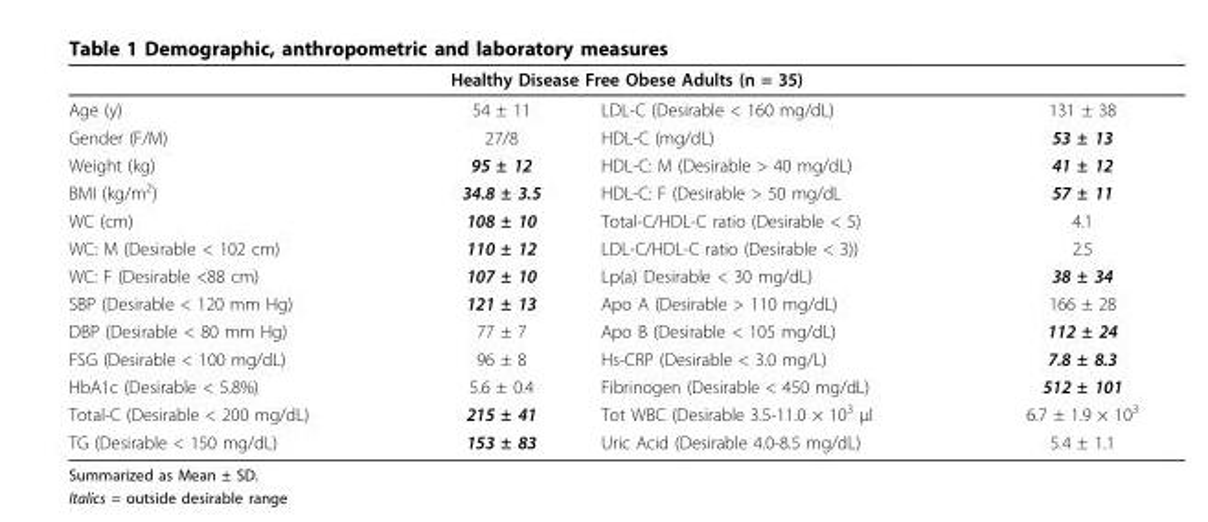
<table><thead><tr><td colspan="4">Healthy Disease Free Obese Adults (n = 35)</td></tr><tr><td>Age (y)</td><td>54 ± 11</td><td>LDL-C (Desirable &lt; 160 mg/dL)</td><td>131 ± 38</td></tr></thead><tbody><tr><td>Gender (F/M)</td><td>27/8</td><td>HDL-C (mg/dL)</td><td>53 ± 13</td></tr><tr><td>Weight (kg)</td><td>95 ± 12</td><td>HDL-C: M (Desirable &gt; 40 mg/dL)</td><td>41 ± 12</td></tr><tr><td>BMI (kg/m<sup>2</sup>)</td><td>34.8 ± 3.5</td><td>HDL-C: F (Desirable &gt; 50 mg/dL</td><td>57 ± 11</td></tr><tr><td>WC (cm)</td><td>108 ± 10</td><td>Total-C/HDL-C ratio (Desirable &lt; 5)</td><td>4.1</td></tr><tr><td>WC: M (Desirable &lt; 102 cm)</td><td>110 ± 12</td><td>LDL-C/HDL-C ratio (Desirable &lt; 3))</td><td>2.5</td></tr><tr><td>WC: F (Desirable &lt;88 cm)</td><td>107 ± 10</td><td>Lp(a) Desirable &lt; 30 mg/dL)</td><td>38 ± 34</td></tr><tr><td>SBP (Desirable &lt; 120 mm Hg)</td><td>121 ± 13</td><td>Apo A (Desirable &gt; 110 mg/dL)</td><td>166 ± 28</td></tr><tr><td>DBP (Desirable &lt; 80 mm Hg)</td><td>77 ± 7</td><td>Apo B (Desirable &lt; 105 mg/dL)</td><td>112 ± 24</td></tr><tr><td>FSG (Desirable &lt; 100 mg/dL)</td><td>96 ± 8</td><td>Hs-CRP (Desirable &lt; 3.0 mg/L)</td><td>7.8 ± 8.3</td></tr><tr><td>HbA1c (Desirable &lt; 5.8%)</td><td>5.6 ± 0.4</td><td>Fibrinogen (Desirable &lt; 450 mg/dL)</td><td>512 ± 101</td></tr><tr><td>Total-C (Desirable &lt; 200 mg/dL)</td><td>215 ± 41</td><td>Tot WBC (Desirable 3.5-11.0 × 10<sup>3</sup> μl</td><td>6.7 ± 1.9 × 10<sup>3</sup></td></tr><tr><td>TG (Desirable &lt; 150 mg/dL)</td><td>153 ± 83</td><td>Uric Acid (Desirable 4.0-8.5 mg/dL)</td><td>5.4 ± 1.1</td></tr></tbody></table>